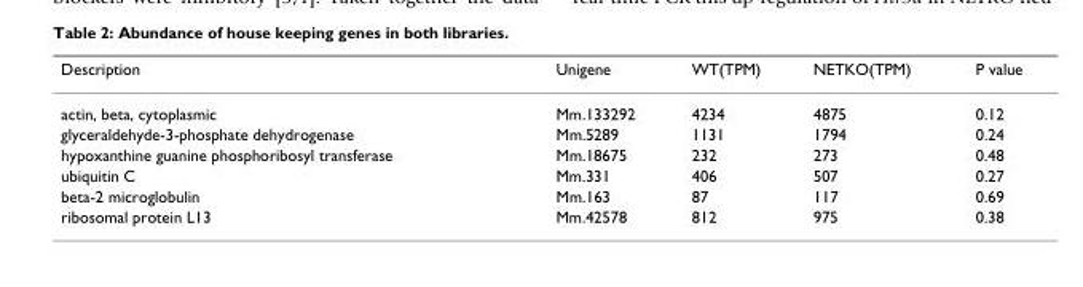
<table><thead><tr><td>Description</td><td>Unigene</td><td>WT(TPM)</td><td>NETKO(TPM)</td><td>P value</td></tr></thead><tbody><tr><td>actin, beta, cytoplasmic</td><td>Mm.133292</td><td>4234</td><td>4875</td><td>0.12</td></tr><tr><td>glyceraldehyde-3-phosphate dehydrogenase</td><td>Mm.5289</td><td>1131</td><td>1794</td><td>0.24</td></tr><tr><td>hypoxanthine guanine phosphoribosyl transferase</td><td>Mm.18675</td><td>232</td><td>273</td><td>0.48</td></tr><tr><td>ubiquitin C</td><td>Mm.331</td><td>406</td><td>507</td><td>0.27</td></tr><tr><td>beta-2 microglobulin</td><td>Mm.163</td><td>87</td><td>117</td><td>0.69</td></tr><tr><td>ribosomal protein L13</td><td>Mm.42578</td><td>812</td><td>975</td><td>0.38</td></tr></tbody></table>